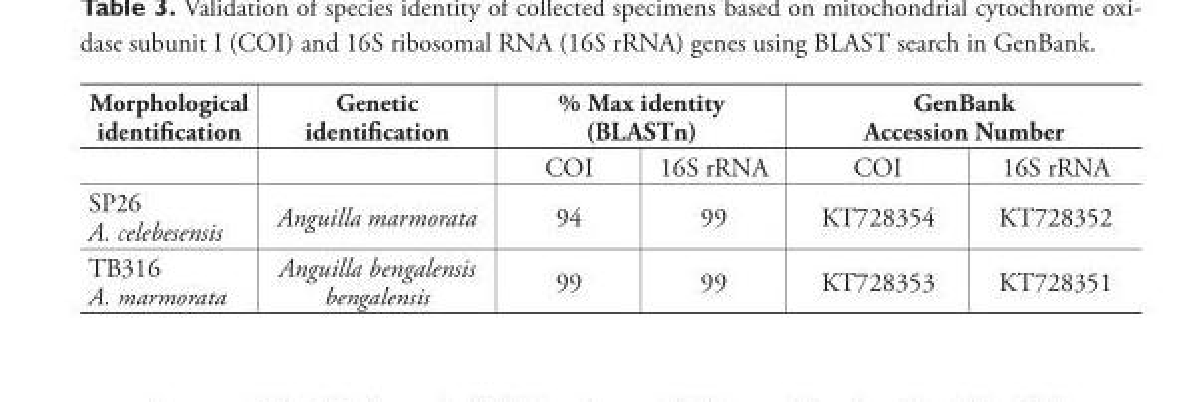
<table><thead><tr><td rowspan="2">Morphological identification</td><td rowspan="2">Genetic identification</td><td colspan="2">% Max identity (BLASTn)</td><td colspan="2">GenBank Accession Number</td></tr><tr><td>COI</td><td>16S rRNA</td><td>COI</td><td>16S rRNA</td></tr></thead><tbody><tr><td>SP26 A. celebesensis</td><td>Anguilla marmorata</td><td>94</td><td>99</td><td>KT728354</td><td>KT728352</td></tr><tr><td>TB316 A. marmorata</td><td>Anguilla bengalensis bengalensis</td><td>99</td><td>99</td><td>KT728353</td><td>KT728351</td></tr></tbody></table>